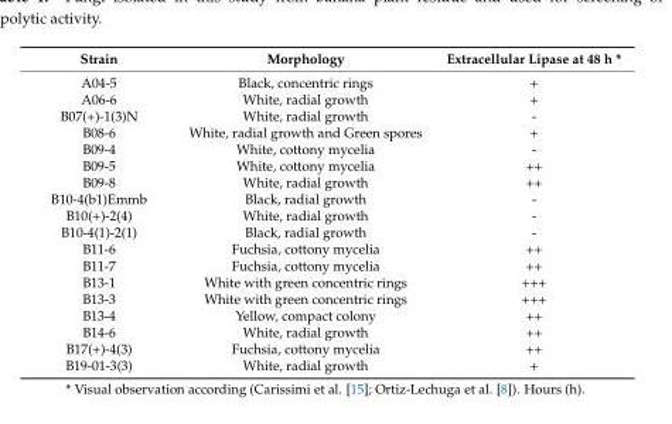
<table><thead><tr><td>Strain</td><td>Morphology</td><td>Extracellular Lipase at 48 h *</td></tr></thead><tbody><tr><td>A04-5</td><td>Black, concentric rings</td><td>+</td></tr><tr><td>A06-6</td><td>White, radial growth</td><td>+</td></tr><tr><td>B07(+)-1(3)N</td><td>White, radial growth</td><td>-</td></tr><tr><td>B08-6</td><td>White, radial growth and Green spores</td><td>+</td></tr><tr><td>B09-4</td><td>White, cottony mycelia</td><td>-</td></tr><tr><td>B09-5</td><td>White, cottony mycelia</td><td>++</td></tr><tr><td>B09-8</td><td>White, radial growth</td><td>++</td></tr><tr><td>B10-4(b1)Emmb</td><td>Black, radial growth</td><td>-</td></tr><tr><td>B10(+)-2(4)</td><td>White, radial growth</td><td>-</td></tr><tr><td>B10-4(1)-2(1)</td><td>Black, radial growth</td><td>-</td></tr><tr><td>B11-6</td><td>Fuchsia, cottony mycelia</td><td>++</td></tr><tr><td>B11-7</td><td>Fuchsia, cottony mycelia</td><td>++</td></tr><tr><td>B13-1</td><td>White with green concentric rings</td><td>+++</td></tr><tr><td>B13-3</td><td>White with green concentric rings</td><td>+++</td></tr><tr><td>B13-4</td><td>Yellow, compact colony</td><td>++</td></tr><tr><td>B14-6</td><td>White, radial growth</td><td>++</td></tr><tr><td>B17(+)-4(3)</td><td>Fuchsia, cottony mycelia</td><td>++</td></tr><tr><td>B19-01-3(3)</td><td>White, radial growth</td><td>+</td></tr></tbody></table>